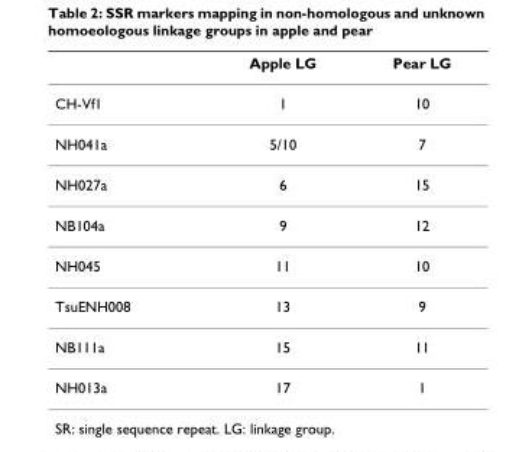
<table><thead><tr><td></td><td>Apple LG</td><td>Pear LG</td></tr></thead><tbody><tr><td>CH-Vf1</td><td>1</td><td>10</td></tr><tr><td>NH041a</td><td>5/10</td><td>7</td></tr><tr><td>NH027a</td><td>6</td><td>15</td></tr><tr><td>NB104a</td><td>9</td><td>12</td></tr><tr><td>NH045</td><td>11</td><td>10</td></tr><tr><td>TsuENH008</td><td>13</td><td>9</td></tr><tr><td>NB111a</td><td>15</td><td>11</td></tr><tr><td>NH013a</td><td>17</td><td>1</td></tr></tbody></table>